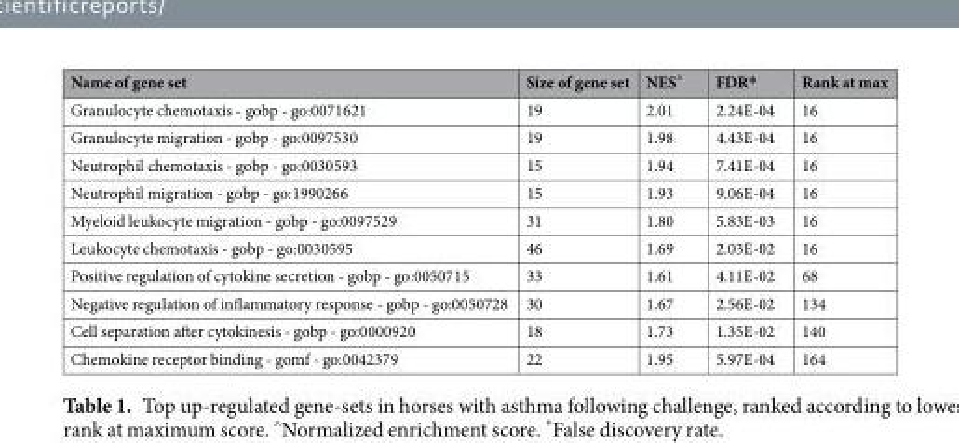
<table><thead><tr><td>Name of gene set</td><td>Size of gene set</td><td>NES<sup>^</sup></td><td>FDR*</td><td>Rank at max</td></tr></thead><tbody><tr><td>Granulocyte chemotaxis - gobp - go:0071621</td><td>19</td><td>2.01</td><td>2.24E-04</td><td>16</td></tr><tr><td>Granulocyte migration - gobp - go:0097530</td><td>19</td><td>1.98</td><td>4.43E-04</td><td>16</td></tr><tr><td>Neutrophil chemotaxis - gobp - go:0030593</td><td>15</td><td>1.94</td><td>7.41E-04</td><td>16</td></tr><tr><td>Neutrophil migration - gobp - go:1990266</td><td>15</td><td>1.93</td><td>9.06E-04</td><td>16</td></tr><tr><td>Myeloid leukocyte migration - gobp - go:0097529</td><td>31</td><td>1.80</td><td>5.83E-03</td><td>16</td></tr><tr><td>Leukocyte chemotaxis - gobp - go:0030595</td><td>46</td><td>1.69</td><td>2.03E-02</td><td>16</td></tr><tr><td>Positive regulation of cytokine secretion - gobp - go:0050715</td><td>33</td><td>1.61</td><td>4.11E-02</td><td>68</td></tr><tr><td>Negative regulation of inflammatory response - gobp - go:0050728</td><td>30</td><td>1.67</td><td>2.56E-02</td><td>134</td></tr><tr><td>Cell separation after cytokinesis - gobp - go:0000920</td><td>18</td><td>1.73</td><td>1.35E-02</td><td>140</td></tr><tr><td>Chemokine receptor binding - gomf - go:0042379</td><td>22</td><td>1.95</td><td>5.97E-04</td><td>164</td></tr></tbody></table>